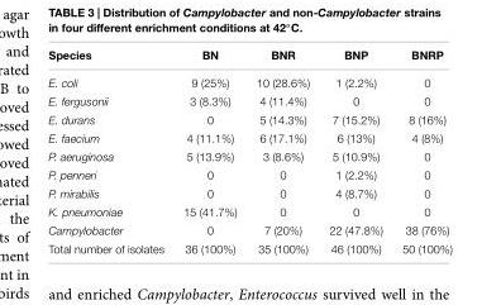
<table><thead><tr><td>Species</td><td>BN</td><td>BNR</td><td>BNP</td><td>BNRP</td></tr></thead><tbody><tr><td>E. coli</td><td>9 (25%)</td><td>10 (28.6%)</td><td>1 (2.2%)</td><td>0</td></tr><tr><td>E. fergusonii</td><td>3 (8.3%)</td><td>4 (11.4%)</td><td>0</td><td>0</td></tr><tr><td>E. durans</td><td>0</td><td>5 (14.3%)</td><td>7 (15.2%)</td><td>8 (16%)</td></tr><tr><td>E. faecium</td><td>4 (11.1%)</td><td>6 (17.1%)</td><td>6 (13%)</td><td>4 (8%)</td></tr><tr><td>P. aeruginosa</td><td>5 (13.9%)</td><td>3 (8.6%)</td><td>5 (10.9%)</td><td>0</td></tr><tr><td>P. penneri</td><td>0</td><td>0</td><td>1 (2.2%)</td><td>0</td></tr><tr><td>P. mirabilis</td><td>0</td><td>0</td><td>4 (8.7%)</td><td>0</td></tr><tr><td>K. pneumoniae</td><td>15 (41.7%)</td><td>0</td><td>0</td><td>0</td></tr><tr><td>Campylobacter</td><td>0</td><td>7 (20%)</td><td>22 (47.8%)</td><td>38 (76%)</td></tr><tr><td>Total number of isolates</td><td>36 (100%)</td><td>35 (100%)</td><td>46 (100%)</td><td>50 (100%)</td></tr></tbody></table>